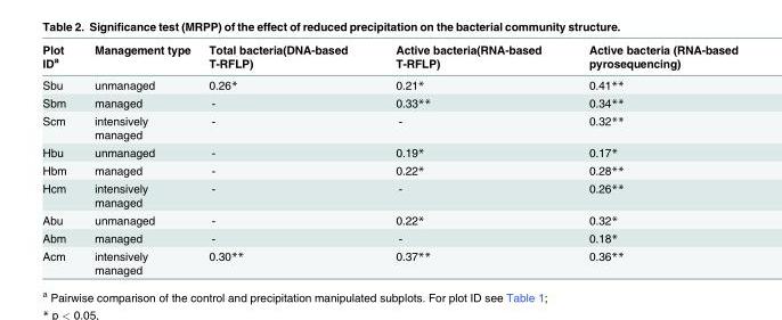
<table><thead><tr><td>Plot ID<sup>a</sup></td><td>Management type</td><td>Total bacteria(DNA-based T-RFLP)</td><td>Active bacteria(RNA-based T-RFLP)</td><td>Active bacteria (RNA-based pyrosequencing)</td></tr></thead><tbody><tr><td>Sbu</td><td>unmanaged</td><td>0.26*</td><td>0.21*</td><td>0.41**</td></tr><tr><td>Sbm</td><td>managed</td><td>-</td><td>0.33**</td><td>0.34**</td></tr><tr><td>Scm</td><td>intensively managed</td><td>-</td><td>-</td><td>0.32**</td></tr><tr><td>Hbu</td><td>unmanaged</td><td>-</td><td>0.19*</td><td>0.17*</td></tr><tr><td>Hbm</td><td>managed</td><td>-</td><td>0.22*</td><td>0.28**</td></tr><tr><td>Hcm</td><td>intensively managed</td><td>-</td><td>-</td><td>0.26**</td></tr><tr><td>Abu</td><td>unmanaged</td><td>-</td><td>0.22*</td><td>0.32*</td></tr><tr><td>Abm</td><td>managed</td><td>-</td><td>-</td><td>0.18*</td></tr><tr><td>Acm</td><td>intensively managed</td><td>0.30**</td><td>0.37**</td><td>0.36**</td></tr></tbody></table>